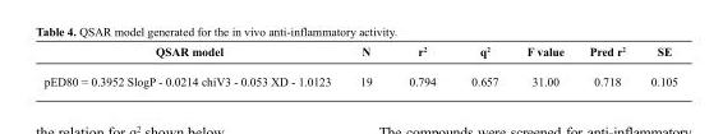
<table><thead><tr><td>QSAR model</td><td>N</td><td>r<sup>2</sup></td><td>q<sup>2</sup></td><td>F value</td><td>Pred r<sup>2</sup></td><td>SE</td></tr></thead><tbody><tr><td>pED80 = 0.3952 SlogP - 0.0214 chiV3 - 0.053 XD - 1.0123</td><td>19</td><td>0.794</td><td>0.657</td><td>31.00</td><td>0.718</td><td>0.105</td></tr></tbody></table>